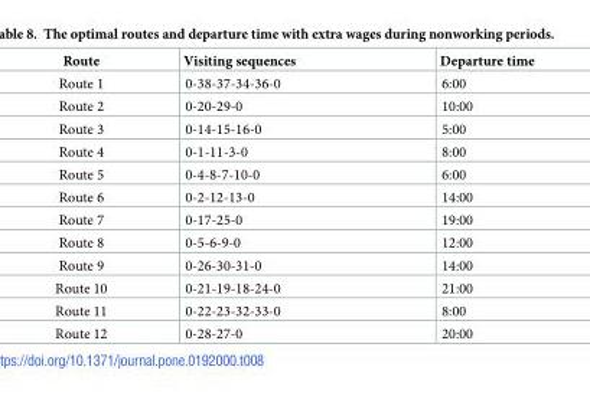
<table><thead><tr><td>Route</td><td>Visiting sequences</td><td>Departure time</td></tr></thead><tbody><tr><td>Route 1</td><td>0-38-37-34-36-0</td><td>6:00</td></tr><tr><td>Route 2</td><td>0-20-29-0</td><td>10:00</td></tr><tr><td>Route 3</td><td>0-14-15-16-0</td><td>5:00</td></tr><tr><td>Route 4</td><td>0-1-11-3-0</td><td>8:00</td></tr><tr><td>Route 5</td><td>0-4-8-7-10-0</td><td>6:00</td></tr><tr><td>Route 6</td><td>0-2-12-13-0</td><td>14:00</td></tr><tr><td>Route 7</td><td>0-17-25-0</td><td>19:00</td></tr><tr><td>Route 8</td><td>0-5-6-9-0</td><td>12:00</td></tr><tr><td>Route 9</td><td>0-26-30-31-0</td><td>14:00</td></tr><tr><td>Route 10</td><td>0-21-19-18-24-0</td><td>21:00</td></tr><tr><td>Route 11</td><td>0-22-23-32-33-0</td><td>8:00</td></tr><tr><td>Route 12</td><td>0-28-27-0</td><td>20:00</td></tr></tbody></table>